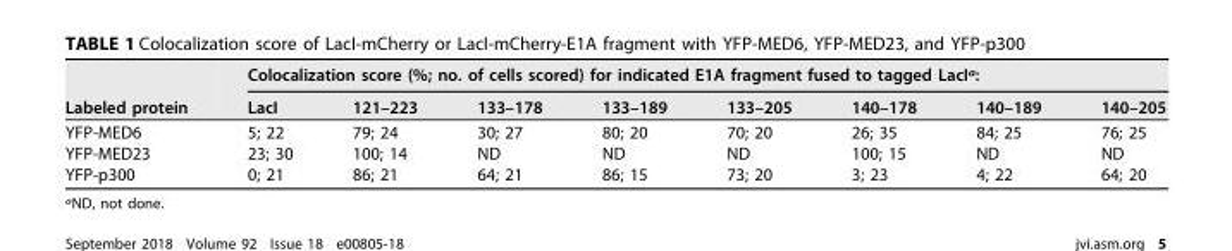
<table><thead><tr><td rowspan="2">Labeled protein</td><td colspan="8">Colocalization score (%; no. of cells scored) for indicated E1A fragment fused to tagged LacI<sup>a</sup>:</td></tr><tr><td>LacI</td><td>121–223</td><td>133–178</td><td>133–189</td><td>133–205</td><td>140–178</td><td>140–189</td><td>140–205</td></tr></thead><tbody><tr><td>YFP-MED6</td><td>5; 22</td><td>79; 24</td><td>30; 27</td><td>80; 20</td><td>70; 20</td><td>26; 35</td><td>84; 25</td><td>76; 25</td></tr><tr><td>YFP-MED23</td><td>23; 30</td><td>100; 14</td><td>ND</td><td>ND</td><td>ND</td><td>100; 15</td><td>ND</td><td>ND</td></tr><tr><td>YFP-p300</td><td>0; 21</td><td>86; 21</td><td>64; 21</td><td>86; 15</td><td>73; 20</td><td>3; 23</td><td>4; 22</td><td>64; 20</td></tr></tbody></table>